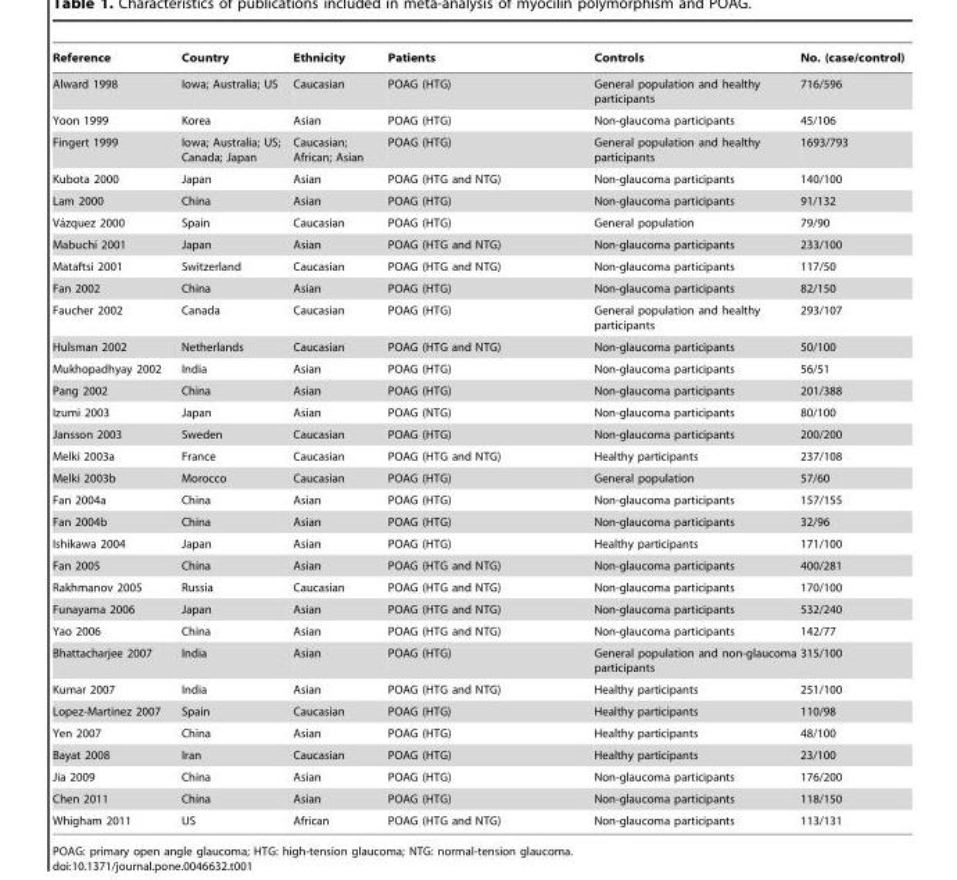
<table><thead><tr><td>Reference</td><td>Country</td><td>Ethnicity</td><td>Patients</td><td>Controls</td><td>No. (case/control)</td></tr></thead><tbody><tr><td>Alward 1998</td><td>Iowa; Australia; US</td><td>Caucasian</td><td>POAG (HTG)</td><td>General population and healthy participants</td><td>716/596</td></tr><tr><td>Yoon 1999</td><td>Korea</td><td>Asian</td><td>POAG (HTG)</td><td>Non-glaucoma participants</td><td>45/106</td></tr><tr><td>Fingert 1999</td><td>Iowa; Australia; US; Canada; Japan</td><td>Caucasian; African; Asian</td><td>POAG (HTG)</td><td>General population and healthy participants</td><td>1693/793</td></tr><tr><td>Kubota 2000</td><td>Japan</td><td>Asian</td><td>POAG (HTG and NTG)</td><td>Non-glaucoma participants</td><td>140/100</td></tr><tr><td>Lam 2000</td><td>China</td><td>Asian</td><td>POAG (HTG)</td><td>Non-glaucoma participants</td><td>91/132</td></tr><tr><td>Va´zquez 2000</td><td>Spain</td><td>Caucasian</td><td>POAG (HTG)</td><td>General population</td><td>79/90</td></tr><tr><td>Mabuchi 2001</td><td>Japan</td><td>Asian</td><td>POAG (HTG and NTG)</td><td>Non-glaucoma participants</td><td>233/100</td></tr><tr><td>Mataftsi 2001</td><td>Switzerland</td><td>Caucasian</td><td>POAG (HTG and NTG)</td><td>Non-glaucoma participants</td><td>117/50</td></tr><tr><td>Fan 2002</td><td>China</td><td>Asian</td><td>POAG (HTG)</td><td>Non-glaucoma participants</td><td>82/150</td></tr><tr><td>Faucher 2002</td><td>Canada</td><td>Caucasian</td><td>POAG (HTG)</td><td>General population and healthy participants</td><td>293/107</td></tr><tr><td>Hulsman 2002</td><td>Netherlands</td><td>Caucasian</td><td>POAG (HTG and NTG)</td><td>Non-glaucoma participants</td><td>50/100</td></tr><tr><td>Mukhopadhyay 2002</td><td>India</td><td>Asian</td><td>POAG (HTG)</td><td>Non-glaucoma participants</td><td>56/51</td></tr><tr><td>Pang 2002</td><td>China</td><td>Asian</td><td>POAG (HTG)</td><td>Non-glaucoma participants</td><td>201/388</td></tr><tr><td>Izumi 2003</td><td>Japan</td><td>Asian</td><td>POAG (NTG)</td><td>Non-glaucoma participants</td><td>80/100</td></tr><tr><td>Jansson 2003</td><td>Sweden</td><td>Caucasian</td><td>POAG (HTG)</td><td>Non-glaucoma participants</td><td>200/200</td></tr><tr><td>Melki 2003a</td><td>France</td><td>Caucasian</td><td>POAG (HTG and NTG)</td><td>Healthy participants</td><td>237/108</td></tr><tr><td>Melki 2003b</td><td>Morocco</td><td>Caucasian</td><td>POAG (HTG)</td><td>General population</td><td>57/60</td></tr><tr><td>Fan 2004a</td><td>China</td><td>Asian</td><td>POAG (HTG)</td><td>Non-glaucoma participants</td><td>157/155</td></tr><tr><td>Fan 2004b</td><td>China</td><td>Asian</td><td>POAG (HTG)</td><td>Non-glaucoma participants</td><td>32/96</td></tr><tr><td>Ishikawa 2004</td><td>Japan</td><td>Asian</td><td>POAG (HTG)</td><td>Healthy participants</td><td>171/100</td></tr><tr><td>Fan 2005</td><td>China</td><td>Asian</td><td>POAG (HTG and NTG)</td><td>Non-glaucoma participants</td><td>400/281</td></tr><tr><td>Rakhmanov 2005</td><td>Russia</td><td>Caucasian</td><td>POAG (HTG and NTG)</td><td>Non-glaucoma participants</td><td>170/100</td></tr><tr><td>Funayama 2006</td><td>Japan</td><td>Asian</td><td>POAG (HTG and NTG)</td><td>Non-glaucoma participants</td><td>532/240</td></tr><tr><td>Yao 2006</td><td>China</td><td>Asian</td><td>POAG (HTG and NTG)</td><td>Non-glaucoma participants</td><td>142/77</td></tr><tr><td>Bhattacharjee 2007</td><td>India</td><td>Asian</td><td>POAG (HTG)</td><td>General population and non-glaucoma participants</td><td>315/100</td></tr><tr><td>Kumar 2007</td><td>India</td><td>Asian</td><td>POAG (HTG and NTG)</td><td>Healthy participants</td><td>251/100</td></tr><tr><td>Lopez-Martinez 2007</td><td>Spain</td><td>Caucasian</td><td>POAG (HTG)</td><td>Healthy participants</td><td>110/98</td></tr><tr><td>Yen 2007</td><td>China</td><td>Asian</td><td>POAG (HTG)</td><td>Healthy participants</td><td>48/100</td></tr><tr><td>Bayat 2008</td><td>Iran</td><td>Caucasian</td><td>POAG (HTG)</td><td>Healthy participants</td><td>23/100</td></tr><tr><td>Jia 2009</td><td>China</td><td>Asian</td><td>POAG (HTG)</td><td>Non-glaucoma participants</td><td>176/200</td></tr><tr><td>Chen 2011</td><td>China</td><td>Asian</td><td>POAG (HTG)</td><td>Non-glaucoma participants</td><td>118/150</td></tr><tr><td>Whigham 2011</td><td>US</td><td>African</td><td>POAG (HTG and NTG)</td><td>Non-glaucoma participants</td><td>113/131</td></tr></tbody></table>